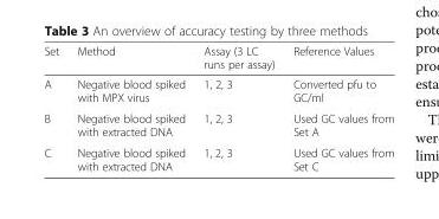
<table><thead><tr><td>Set</td><td>Method</td><td>Assay (3 LC runs per assay)</td><td>Reference Values</td></tr></thead><tbody><tr><td>A</td><td>Negative blood spiked with MPX virus</td><td>1, 2, 3</td><td>Converted pfu to GC/ml</td></tr><tr><td>B</td><td>Negative blood spiked with extracted DNA</td><td>1, 2, 3</td><td>Used GC values from Set A</td></tr><tr><td>C</td><td>Negative blood spiked with extracted DNA</td><td>1, 2, 3</td><td>Used GC values from Set C</td></tr></tbody></table>